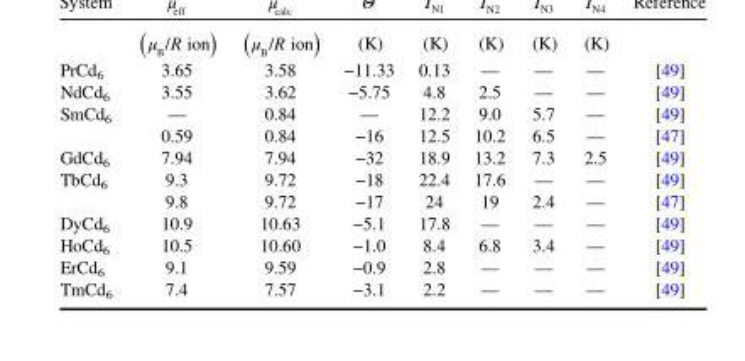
<table><tbody><tr><td>PrCd<sub>6</sub></td><td>3.65</td><td>3.58</td><td>−11.33</td><td>0.13</td><td>—</td><td>—</td><td>—</td><td>[49]</td></tr><tr><td>NdCd<sub>6</sub></td><td>3.55</td><td>3.62</td><td>−5.75</td><td>4.8</td><td>2.5</td><td>—</td><td>—</td><td>[49]</td></tr><tr><td rowspan="2">SmCd<sub>6</sub></td><td>—</td><td>0.84</td><td>—</td><td>12.2</td><td>9.0</td><td>5.7</td><td>—</td><td>[49]</td></tr><tr><td>0.59</td><td>0.84</td><td>−16</td><td>12.5</td><td>10.2</td><td>6.5</td><td>—</td><td>[47]</td></tr><tr><td>GdCd<sub>6</sub></td><td>7.94</td><td>7.94</td><td>−32</td><td>18.9</td><td>13.2</td><td>7.3</td><td>2.5</td><td>[49]</td></tr><tr><td rowspan="2">TbCd<sub>6</sub></td><td>9.3</td><td>9.72</td><td>−18</td><td>22.4</td><td>17.6</td><td>—</td><td>—</td><td>[49]</td></tr><tr><td>9.8</td><td>9.72</td><td>−17</td><td>24</td><td>19</td><td>2.4</td><td>—</td><td>[47]</td></tr><tr><td>DyCd<sub>6</sub></td><td>10.9</td><td>10.63</td><td>−5.1</td><td>17.8</td><td>—</td><td>—</td><td>—</td><td>[49]</td></tr><tr><td>HoCd<sub>6</sub></td><td>10.5</td><td>10.60</td><td>−1.0</td><td>8.4</td><td>6.8</td><td>3.4</td><td>—</td><td>[49]</td></tr><tr><td>ErCd<sub>6</sub></td><td>9.1</td><td>9.59</td><td>−0.9</td><td>2.8</td><td>—</td><td>—</td><td>—</td><td>[49]</td></tr><tr><td>TmCd<sub>6</sub></td><td>7.4</td><td>7.57</td><td>−3.1</td><td>2.2</td><td>—</td><td>—</td><td>—</td><td>[49]</td></tr></tbody></table>